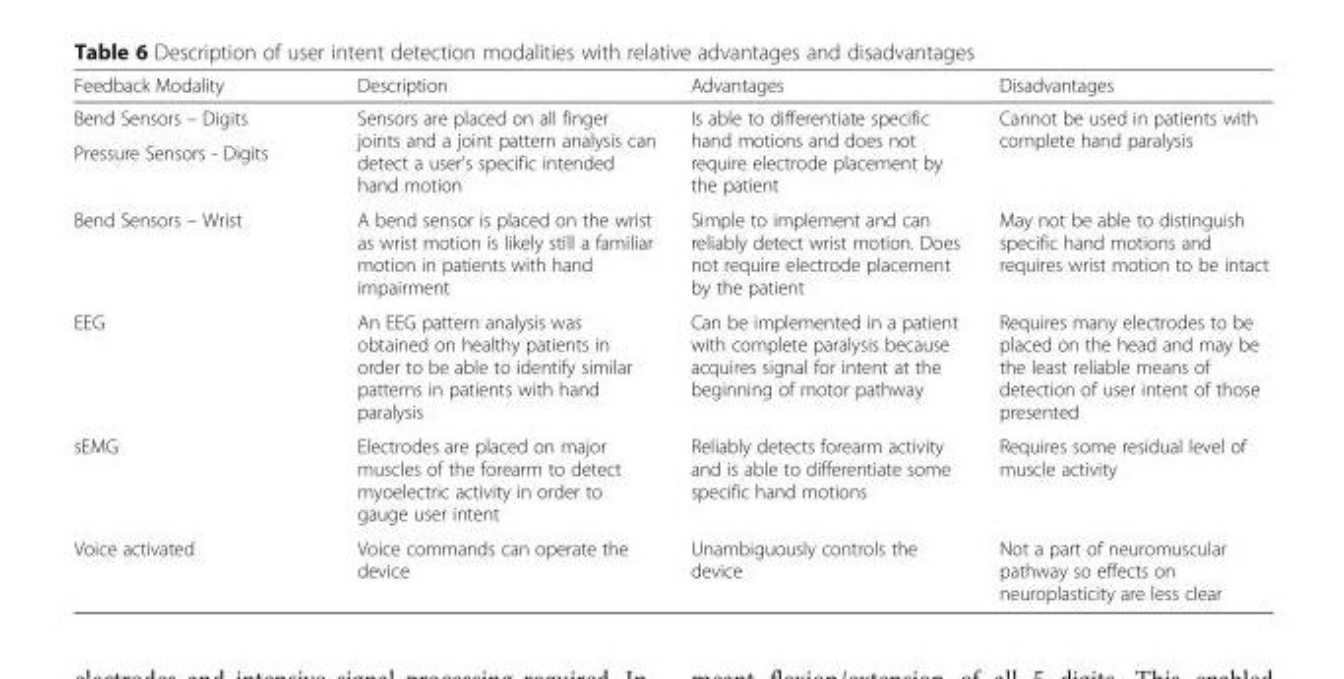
<table><thead><tr><td>Feedback Modality</td><td>Description</td><td>Advantages</td><td>Disadvantages</td></tr></thead><tbody><tr><td>Bend Sensors – Digits</td><td rowspan="2">Sensors are placed on all finger joints and a joint pattern analysis can detect a user’s specific intended hand motion</td><td rowspan="2">Is able to differentiate specific hand motions and does not require electrode placement by the patient</td><td rowspan="2">Cannot be used in patients with complete hand paralysis</td></tr><tr><td>Pressure Sensors - Digits</td></tr><tr><td>Bend Sensors – Wrist</td><td>A bend sensor is placed on the wrist as wrist motion is likely still a familiar motion in patients with hand impairment</td><td>Simple to implement and can reliably detect wrist motion. Does not require electrode placement by the patient</td><td>May not be able to distinguish specific hand motions and requires wrist motion to be intact</td></tr><tr><td>EEG</td><td>An EEG pattern analysis was obtained on healthy patients in order to be able to identify similar patterns in patients with hand paralysis</td><td>Can be implemented in a patient with complete paralysis because acquires signal for intent at the beginning of motor pathway</td><td>Requires many electrodes to be placed on the head and may be the least reliable means of detection of user intent of those presented</td></tr><tr><td>sEMG</td><td>Electrodes are placed on major muscles of the forearm to detect myoelectric activity in order to gauge user intent</td><td>Reliably detects forearm activity and is able to differentiate some specific hand motions</td><td>Requires some residual level of muscle activity</td></tr><tr><td>Voice activated</td><td>Voice commands can operate the device</td><td>Unambiguously controls the device</td><td>Not a part of neuromuscular pathway so effects on neuroplasticity are less clear</td></tr></tbody></table>